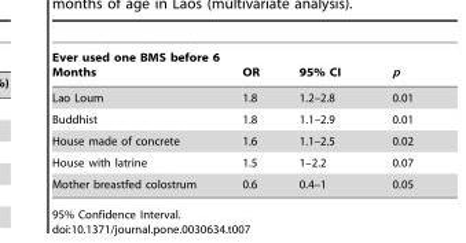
<table><thead><tr><td>Ever used one BMS before 6 Months</td><td>OR</td><td>95% CI</td><td>p</td></tr></thead><tbody><tr><td>Lao Loum</td><td>1.8</td><td>1.2–2.8</td><td>0.01</td></tr><tr><td>Buddhist</td><td>1.8</td><td>1.1–2.9</td><td>0.01</td></tr><tr><td>House made of concrete</td><td>1.6</td><td>1.1–2.5</td><td>0.02</td></tr><tr><td>House with latrine</td><td>1.5</td><td>1–2.2</td><td>0.07</td></tr><tr><td>Mother breastfed colostrum</td><td>0.6</td><td>0.4–1</td><td>0.05</td></tr></tbody></table>